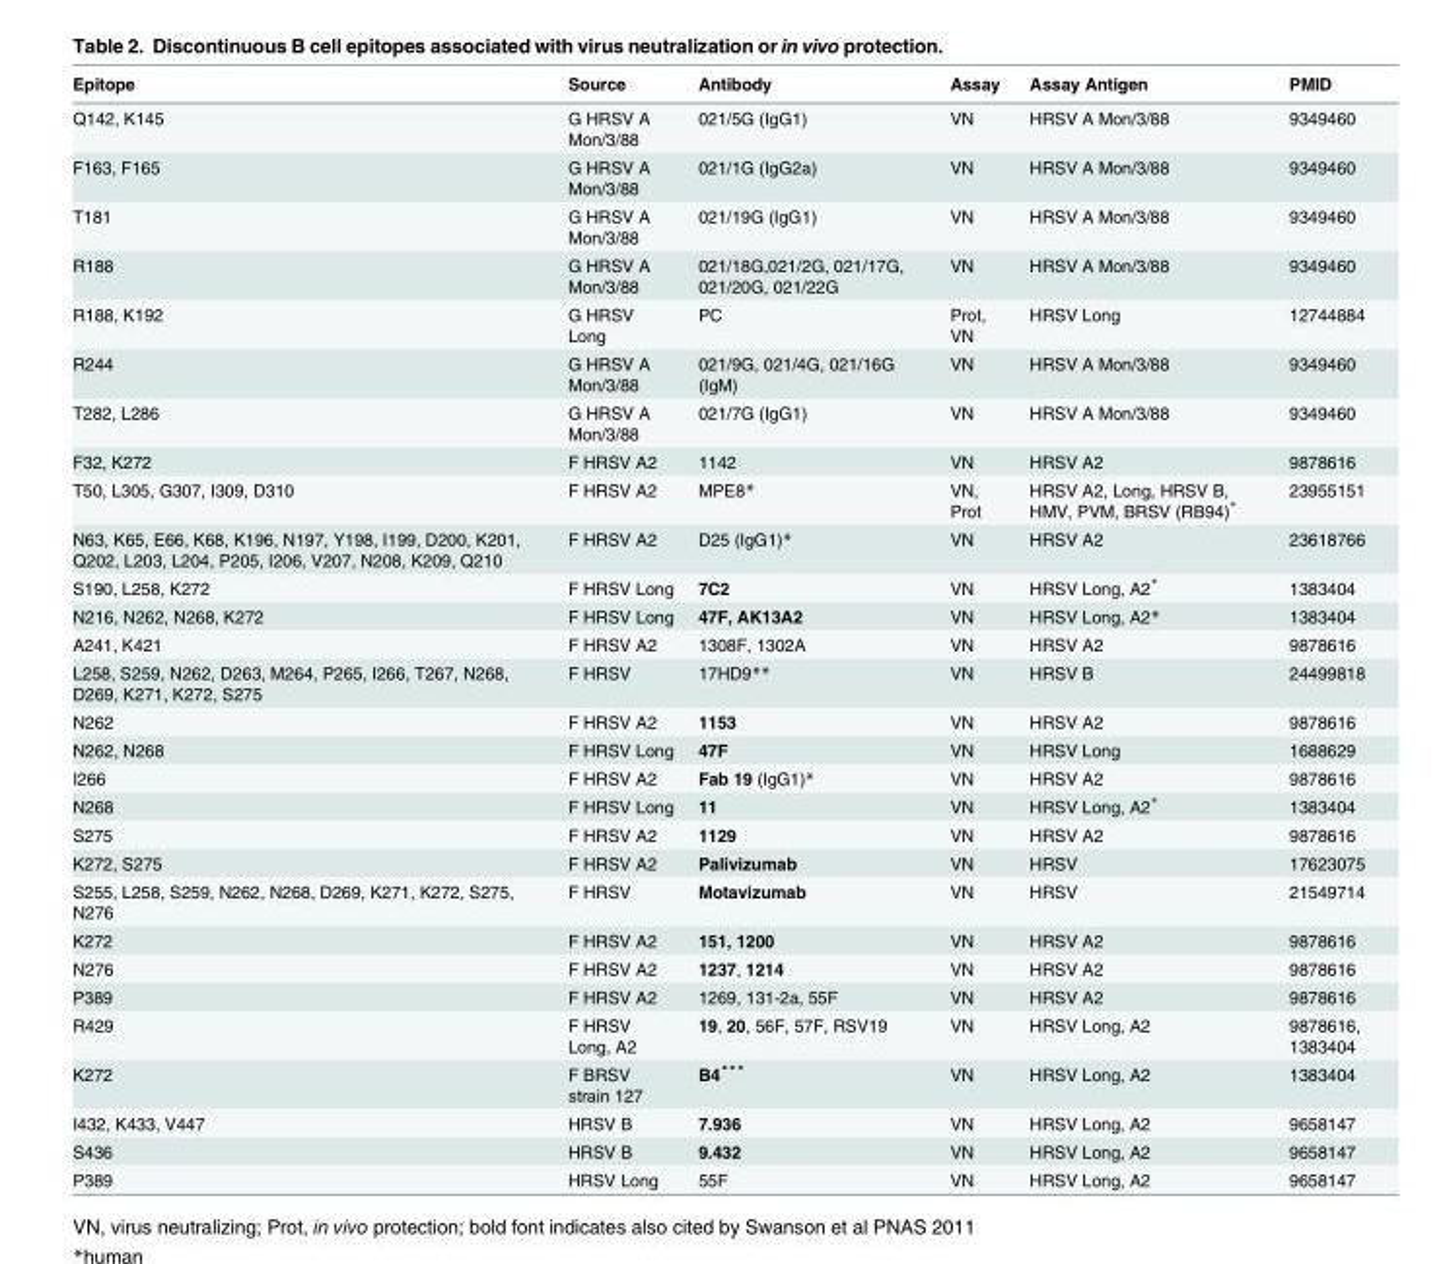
<table><thead><tr><td>Epitope</td><td>Source</td><td>Antibody</td><td>Assay</td><td>Assay Antigen</td><td>PMID</td></tr></thead><tbody><tr><td>Q142, K145</td><td>G HRSV A Mon/3/88</td><td>021/5G (IgG1)</td><td>VN</td><td>HRSV A Mon/3/88</td><td>9349460</td></tr><tr><td>F163, F165</td><td>G HRSV A Mon/3/88</td><td>021/1G (IgG2a)</td><td>VN</td><td>HRSV A Mon/3/88</td><td>9349460</td></tr><tr><td>T181</td><td>G HRSV A Mon/3/88</td><td>021/19G (IgG1)</td><td>VN</td><td>HRSV A Mon/3/88</td><td>9349460</td></tr><tr><td>R188</td><td>G HRSV A Mon/3/88</td><td>021/18G,021/2G, 021/17G, 021/20G, 021/22G</td><td>VN</td><td>HRSV A Mon/3/88</td><td>9349460</td></tr><tr><td>R188, K192</td><td>G HRSV Long</td><td>PC</td><td>Prot, VN</td><td>HRSV Long</td><td>12744884</td></tr><tr><td>R244</td><td>G HRSV A Mon/3/88</td><td>021/9G, 021/4G, 021/16G (IgM)</td><td>VN</td><td>HRSV A Mon/3/88</td><td>9349460</td></tr><tr><td>T282, L286</td><td>G HRSV A Mon/3/88</td><td>021/7G (IgG1)</td><td>VN</td><td>HRSV A Mon/3/88</td><td>9349460</td></tr><tr><td>F32, K272</td><td>F HRSV A2</td><td>1142</td><td>VN</td><td>HRSV A2</td><td>9878616</td></tr><tr><td>T50, L305, G307, I309, D310</td><td>F HRSV A2</td><td>MPE8*</td><td>VN, Prot</td><td>HRSV A2, Long, HRSV B, HMV, PVM, BRSV (RB94)*</td><td>23955151</td></tr><tr><td>N63, K65, E66, K68, K196, N197, Y198, I199, D200, K201, Q202, L203, L204, P205, I206, V207, N208, K209, Q210</td><td>F HRSV A2</td><td>D25 (IgG1)*</td><td>VN</td><td>HRSV A2</td><td>23618766</td></tr><tr><td>S190, L258, K272</td><td>F HRSV Long</td><td>7C2</td><td>VN</td><td>HRSV Long, A2*</td><td>1383404</td></tr><tr><td>N216, N262, N268, K272</td><td>F HRSV Long</td><td>47F, AK13A2</td><td>VN</td><td>HRSV Long, A2*</td><td>1383404</td></tr><tr><td>A241, K421</td><td>F HRSV A2</td><td>1308F, 1302A</td><td>VN</td><td>HRSV A2</td><td>9878616</td></tr><tr><td>L258, S259, N262, D263, M264, P265, I266, T267, N268, D269, K271, K272, S275</td><td>F HRSV</td><td>17HD9**</td><td>VN</td><td>HRSV B</td><td>24499818</td></tr><tr><td>N262</td><td>F HRSV A2</td><td>1153</td><td>VN</td><td>HRSV A2</td><td>9878616</td></tr><tr><td>N262, N268</td><td>F HRSV Long</td><td>47F</td><td>VN</td><td>HRSV Long</td><td>1688629</td></tr><tr><td>I266</td><td>F HRSV A2</td><td>Fab 19 (IgG1)*</td><td>VN</td><td>HRSV A2</td><td>9878616</td></tr><tr><td>N268</td><td>F HRSV Long</td><td>11</td><td>VN</td><td>HRSV Long, A2*</td><td>1383404</td></tr><tr><td>S275</td><td>F HRSV A2</td><td>1129</td><td>VN</td><td>HRSV A2</td><td>9878616</td></tr><tr><td>K272, S275</td><td>F HRSV A2</td><td>Palivizumab</td><td>VN</td><td>HRSV</td><td>17623075</td></tr><tr><td>S255, L258, S259, N262, N268, D269, K271, K272, S275, N276</td><td>F HRSV</td><td>Motavizumab</td><td>VN</td><td>HRSV</td><td>21549714</td></tr><tr><td>K272</td><td>F HRSV A2</td><td>151, 1200</td><td>VN</td><td>HRSV A2</td><td>9878616</td></tr><tr><td>N276</td><td>F HRSV A2</td><td>1237, 1214</td><td>VN</td><td>HRSV A2</td><td>9878616</td></tr><tr><td>P389</td><td>F HRSV A2</td><td>1269, 131-2a, 55F</td><td>VN</td><td>HRSV A2</td><td>9878616</td></tr><tr><td>R429</td><td>F HRSV Long, A2</td><td>19, 20, 56F, 57F, RSV19</td><td>VN</td><td>HRSV Long, A2</td><td>9878616, 1383404</td></tr><tr><td>K272</td><td>F BRSV strain 127</td><td>B4***</td><td>VN</td><td>HRSV Long, A2</td><td>1383404</td></tr><tr><td>I432, K433, V447</td><td>HRSV B</td><td>7.936</td><td>VN</td><td>HRSV Long, A2</td><td>9658147</td></tr><tr><td>S436</td><td>HRSV B</td><td>9.432</td><td>VN</td><td>HRSV Long, A2</td><td>9658147</td></tr><tr><td>P389</td><td>HRSV Long</td><td>55F</td><td>VN</td><td>HRSV Long, A2</td><td>9658147</td></tr></tbody></table>